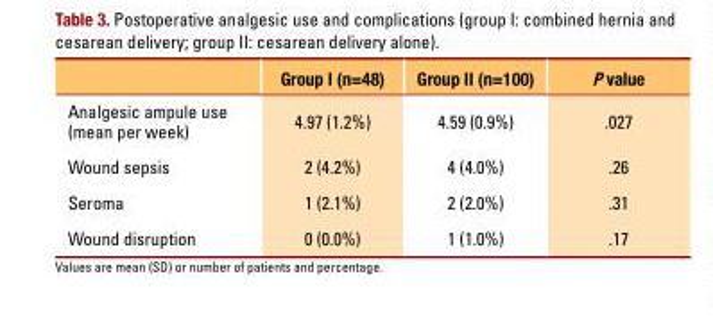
<table><thead><tr><td></td><td>Group I (n=48)</td><td>Group II (n=100)</td><td>P value</td></tr></thead><tbody><tr><td>Analgesic ampule use (mean per week)</td><td>4.97 (1.2%)</td><td>4.59 (0.9%)</td><td>.027</td></tr><tr><td>Wound sepsis</td><td>2 (4.2%)</td><td>4 (4.0%)</td><td>.26</td></tr><tr><td>Seroma</td><td>1 (2.1%)</td><td>2 (2.0%)</td><td>.31</td></tr><tr><td>Wound disruption</td><td>0 (0.0%)</td><td>1 (1.0%)</td><td>.17</td></tr></tbody></table>